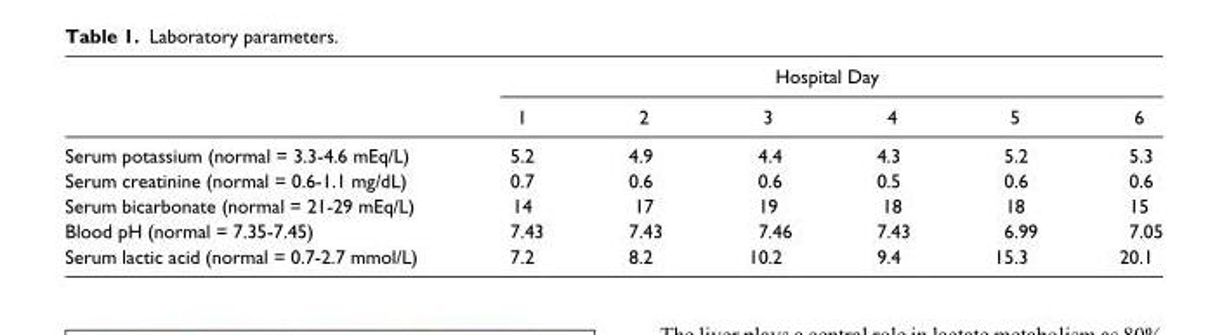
<table><thead><tr><td rowspan="2"></td><td colspan="6">Hospital Day</td></tr><tr><td>1</td><td>2</td><td>3</td><td>4</td><td>5</td><td>6</td></tr></thead><tbody><tr><td>Serum potassium (normal = 3.3-4.6 mEq/L)</td><td>5.2</td><td>4.9</td><td>4.4</td><td>4.3</td><td>5.2</td><td>5.3</td></tr><tr><td>Serum creatinine (normal = 0.6-1.1 mg/dL)</td><td>0.7</td><td>0.6</td><td>0.6</td><td>0.5</td><td>0.6</td><td>0.6</td></tr><tr><td>Serum bicarbonate (normal = 21-29 mEq/L)</td><td>14</td><td>17</td><td>19</td><td>18</td><td>18</td><td>15</td></tr><tr><td>Blood pH (normal = 7.35-7.45)</td><td>7.43</td><td>7.43</td><td>7.46</td><td>7.43</td><td>6.99</td><td>7.05</td></tr><tr><td>Serum lactic acid (normal = 0.7-2.7 mmol/L)</td><td>7.2</td><td>8.2</td><td>10.2</td><td>9.4</td><td>15.3</td><td>20.1</td></tr></tbody></table>